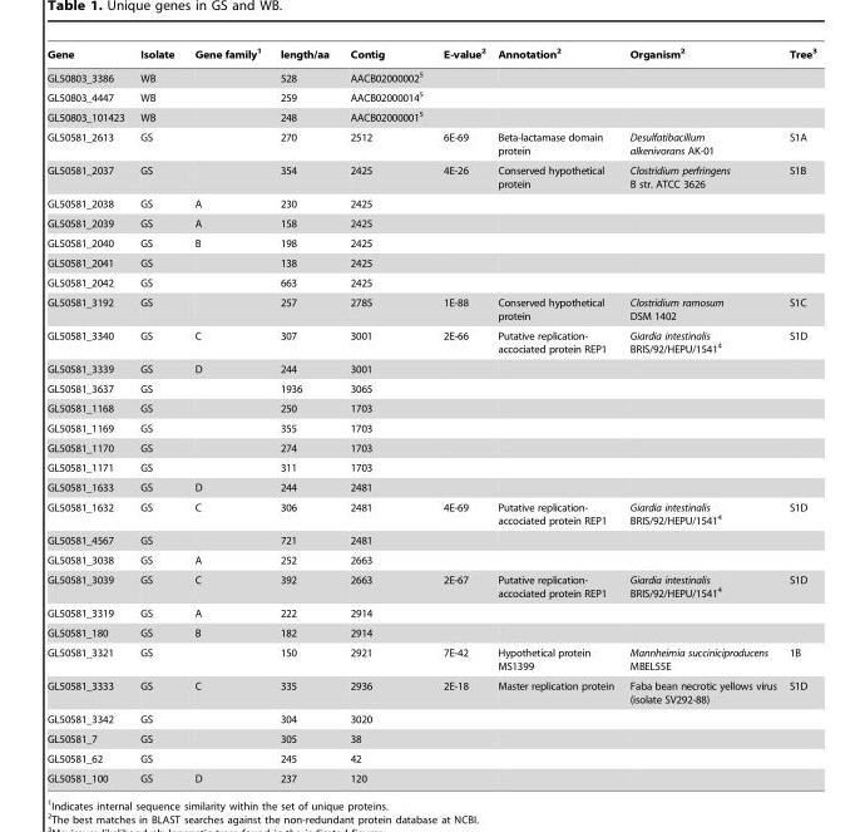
<table><thead><tr><td>Gene</td><td>Isolate</td><td>Gene family<sup>1</sup></td><td>length/aa</td><td>Contig</td><td>E-value<sup>2</sup></td><td>Annotation<sup>2</sup></td><td>Organism<sup>2</sup></td><td>Tree<sup>3</sup></td></tr></thead><tbody><tr><td>GL50803_3386</td><td>WB</td><td></td><td>528</td><td>AACB02000002<sup>5</sup></td><td></td><td></td><td></td><td></td></tr><tr><td>GL50803_4447</td><td>WB</td><td></td><td>259</td><td>AACB02000014<sup>5</sup></td><td></td><td></td><td></td><td></td></tr><tr><td>GL50803_101423</td><td>WB</td><td></td><td>248</td><td>AACB02000001<sup>5</sup></td><td></td><td></td><td></td><td></td></tr><tr><td>GL50581_2613</td><td>GS</td><td></td><td>270</td><td>2512</td><td>6E-69</td><td>Beta-lactamase domain protein</td><td>Desulfatibacillum alkenivorans AK-01</td><td>S1A</td></tr><tr><td>GL50581_2037</td><td>GS</td><td></td><td>354</td><td>2425</td><td>4E-26</td><td>Conserved hypothetical protein</td><td>Clostridium perfringens B str. ATCC 3626</td><td>S1B</td></tr><tr><td>GL50581_2038</td><td>GS</td><td>A</td><td>230</td><td>2425</td><td></td><td></td><td></td><td></td></tr><tr><td>GL50581_2039</td><td>GS</td><td>A</td><td>158</td><td>2425</td><td></td><td></td><td></td><td></td></tr><tr><td>GL50581_2040</td><td>GS</td><td>B</td><td>198</td><td>2425</td><td></td><td></td><td></td><td></td></tr><tr><td>GL50581_2041</td><td>GS</td><td></td><td>138</td><td>2425</td><td></td><td></td><td></td><td></td></tr><tr><td>GL50581_2042</td><td>GS</td><td></td><td>663</td><td>2425</td><td></td><td></td><td></td><td></td></tr><tr><td>GL50581_3192</td><td>GS</td><td></td><td>257</td><td>2785</td><td>1E-88</td><td>Conserved hypothetical protein</td><td>Clostridium ramosum DSM 1402</td><td>S1C</td></tr><tr><td>GL50581_3340</td><td>GS</td><td>C</td><td>307</td><td>3001</td><td>2E-66</td><td>Putative replication- accociated protein REP1</td><td>Giardia intestinalis BRIS/92/HEPU/1541<sup>4</sup></td><td>S1D</td></tr><tr><td>GL50581_3339</td><td>GS</td><td>D</td><td>244</td><td>3001</td><td></td><td></td><td></td><td></td></tr><tr><td>GL50581_3637</td><td>GS</td><td></td><td>1936</td><td>3065</td><td></td><td></td><td></td><td></td></tr><tr><td>GL50581_1168</td><td>GS</td><td></td><td>250</td><td>1703</td><td></td><td></td><td></td><td></td></tr><tr><td>GL50581_1169</td><td>GS</td><td></td><td>355</td><td>1703</td><td></td><td></td><td></td><td></td></tr><tr><td>GL50581_1170</td><td>GS</td><td></td><td>274</td><td>1703</td><td></td><td></td><td></td><td></td></tr><tr><td>GL50581_1171</td><td>GS</td><td></td><td>311</td><td>1703</td><td></td><td></td><td></td><td></td></tr><tr><td>GL50581_1633</td><td>GS</td><td>D</td><td>244</td><td>2481</td><td></td><td></td><td></td><td></td></tr><tr><td>GL50581_1632</td><td>GS</td><td>C</td><td>306</td><td>2481</td><td>4E-69</td><td>Putative replication- accociated protein REP1</td><td>Giardia intestinalis BRIS/92/HEPU/1541<sup>4</sup></td><td>S1D</td></tr><tr><td>GL50581_4567</td><td>GS</td><td></td><td>721</td><td>2481</td><td></td><td></td><td></td><td></td></tr><tr><td>GL50581_3038</td><td>GS</td><td>A</td><td>252</td><td>2663</td><td></td><td></td><td></td><td></td></tr><tr><td>GL50581_3039</td><td>GS</td><td>C</td><td>392</td><td>2663</td><td>2E-67</td><td>Putative replication- accociated protein REP1</td><td>Giardia intestinalis BRIS/92/HEPU/1541<sup>4</sup></td><td>S1D</td></tr><tr><td>GL50581_3319</td><td>GS</td><td>A</td><td>222</td><td>2914</td><td></td><td></td><td></td><td></td></tr><tr><td>GL50581_180</td><td>GS</td><td>B</td><td>182</td><td>2914</td><td></td><td></td><td></td><td></td></tr><tr><td>GL50581_3321</td><td>GS</td><td></td><td>150</td><td>2921</td><td>7E-42</td><td>Hypothetical protein MS1399</td><td>Mannheimia succiniciproducens MBEL55E</td><td>1B</td></tr><tr><td>GL50581_3333</td><td>GS</td><td>C</td><td>335</td><td>2936</td><td>2E-18</td><td>Master replication protein</td><td>Faba bean necrotic yellows virus (isolate SV292-88)</td><td>S1D</td></tr><tr><td>GL50581_3342</td><td>GS</td><td></td><td>304</td><td>3020</td><td></td><td></td><td></td><td></td></tr><tr><td>GL50581_7</td><td>GS</td><td></td><td>305</td><td>38</td><td></td><td></td><td></td><td></td></tr><tr><td>GL50581_62</td><td>GS</td><td></td><td>245</td><td>42</td><td></td><td></td><td></td><td></td></tr><tr><td>GL50581_100</td><td>GS</td><td>D</td><td>237</td><td>120</td><td></td><td></td><td></td><td></td></tr></tbody></table>